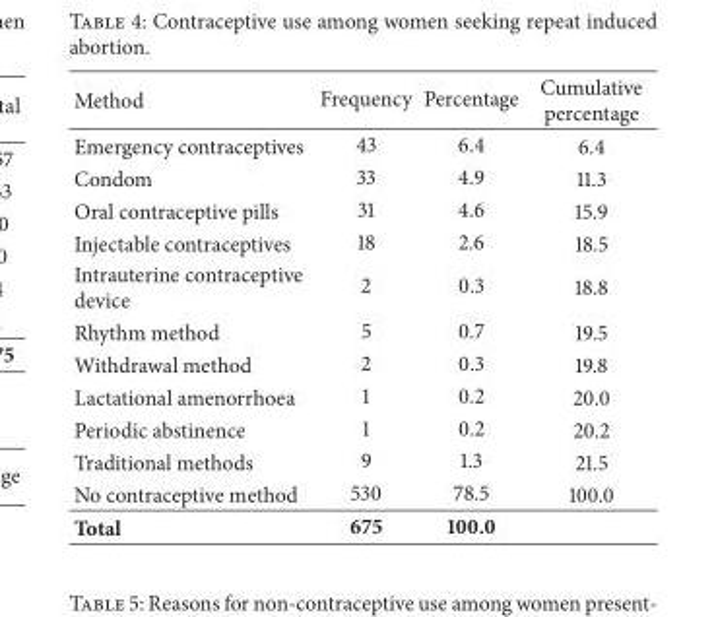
<table><thead><tr><td>Method</td><td>Frequency</td><td>Percentage</td><td>Cumulative percentage</td></tr></thead><tbody><tr><td>Emergency contraceptives</td><td>43</td><td>6.4</td><td>6.4</td></tr><tr><td>Condom</td><td>33</td><td>4.9</td><td>11.3</td></tr><tr><td>Oral contraceptive pills</td><td>31</td><td>4.6</td><td>15.9</td></tr><tr><td>Injectable contraceptives</td><td>18</td><td>2.6</td><td>18.5</td></tr><tr><td>Intrauterine contraceptive device</td><td>2</td><td>0.3</td><td>18.8</td></tr><tr><td>Rhythm method</td><td>5</td><td>0.7</td><td>19.5</td></tr><tr><td>Withdrawal method</td><td>2</td><td>0.3</td><td>19.8</td></tr><tr><td>Lactational amenorrhoea</td><td>1</td><td>0.2</td><td>20.0</td></tr><tr><td>Periodic abstinence</td><td>1</td><td>0.2</td><td>20.2</td></tr><tr><td>Traditional methods</td><td>9</td><td>1.3</td><td>21.5</td></tr><tr><td>No contraceptive method</td><td>530</td><td>78.5</td><td>100.0</td></tr><tr><td>Total</td><td>675</td><td>100.0</td><td></td></tr></tbody></table>